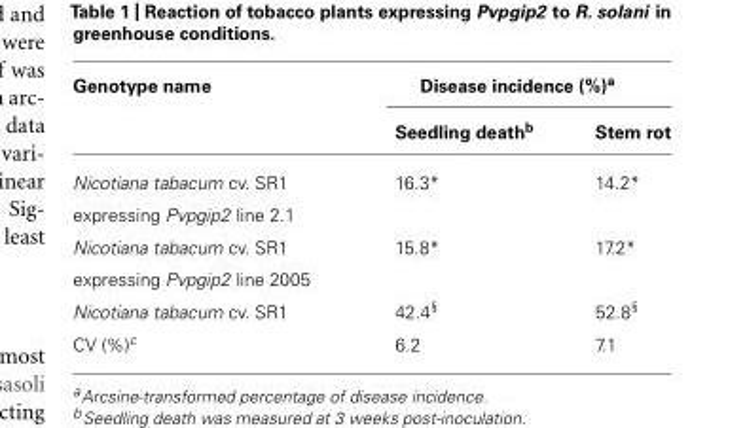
<table><thead><tr><td rowspan="2">Genotype name</td><td colspan="2">Disease incidence (%)<sup>a</sup></td></tr><tr><td>Seedling death<sup>b</sup></td><td>Stem rot</td></tr></thead><tbody><tr><td>Nicotiana tabacum cv. SR1 expressing Pvpgip2 line 2.1</td><td>16.3*</td><td>14.2*</td></tr><tr><td>Nicotiana tabacum cv. SR1 expressing Pvpgip2 line 2005</td><td>15.8*</td><td>17.2*</td></tr><tr><td>Nicotiana tabacum cv. SR1</td><td>42.4<sup>§</sup></td><td>52.8<sup>§</sup></td></tr><tr><td>CV (%)<sup>c</sup></td><td>6.2</td><td>7.1</td></tr></tbody></table>